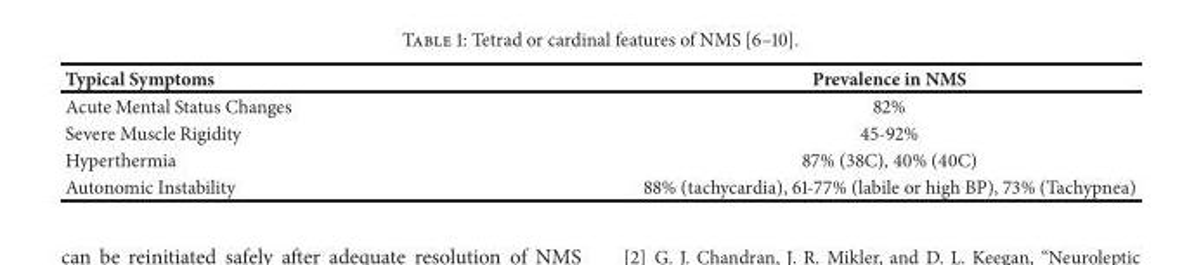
<table><thead><tr><td>Typical Symptoms</td><td>Prevalence in NMS</td></tr></thead><tbody><tr><td>Acute Mental Status Changes</td><td>82%</td></tr><tr><td>Severe Muscle Rigidity</td><td>45-92%</td></tr><tr><td>Hyperthermia</td><td>87% (38C), 40% (40C)</td></tr><tr><td>Autonomic Instability</td><td>88% (tachycardia), 61-77% (labile or high BP), 73% (Tachypnea)</td></tr></tbody></table>